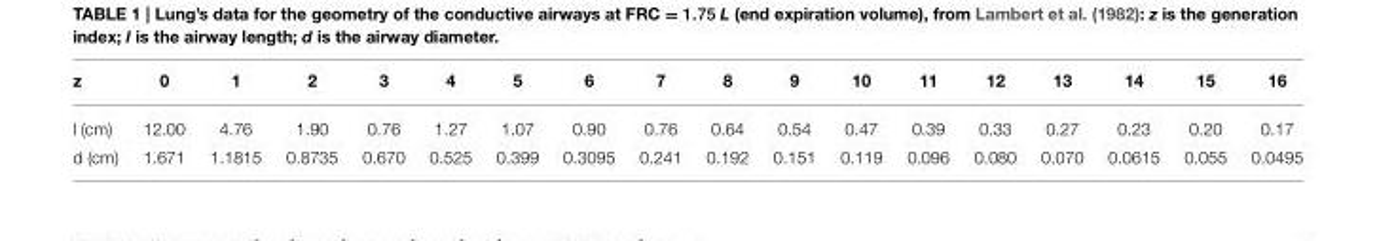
<table><thead><tr><td>z</td><td>0</td><td>1</td><td>2</td><td>3</td><td>4</td><td>5</td><td>6</td><td>7</td><td>8</td><td>9</td><td>10</td><td>11</td><td>12</td><td>13</td><td>14</td><td>15</td><td>16</td></tr></thead><tbody><tr><td>l (cm)</td><td>12.00</td><td>4.76</td><td>1.90</td><td>0.76</td><td>1.27</td><td>1.07</td><td>0.90</td><td>0.76</td><td>0.64</td><td>0.54</td><td>0.47</td><td>0.39</td><td>0.33</td><td>0.27</td><td>0.23</td><td>0.20</td><td>0.17</td></tr><tr><td>d (cm)</td><td>1.671</td><td>1.1815</td><td>0.8735</td><td>0.670</td><td>0.525</td><td>0.399</td><td>0.3095</td><td>0.241</td><td>0.192</td><td>0.151</td><td>0.119</td><td>0.096</td><td>0.080</td><td>0.070</td><td>0.0615</td><td>0.055</td><td>0.0495</td></tr></tbody></table>